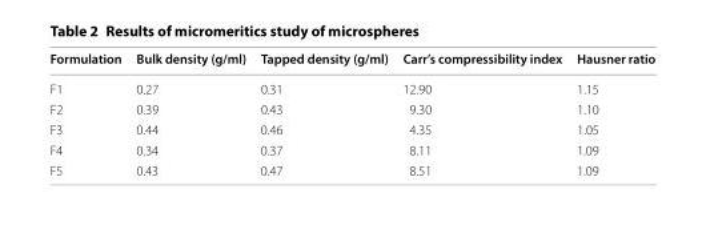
<table><thead><tr><td>Formulation</td><td>Bulk density (g/ml)</td><td>Tapped density (g/ml)</td><td>Carr’s compressibility index</td><td>Hausner ratio</td></tr></thead><tbody><tr><td>F1</td><td>0.27</td><td>0.31</td><td>12.90</td><td>1.15</td></tr><tr><td>F2</td><td>0.39</td><td>0.43</td><td>9.30</td><td>1.10</td></tr><tr><td>F3</td><td>0.44</td><td>0.46</td><td>4.35</td><td>1.05</td></tr><tr><td>F4</td><td>0.34</td><td>0.37</td><td>8.11</td><td>1.09</td></tr><tr><td>F5</td><td>0.43</td><td>0.47</td><td>8.51</td><td>1.09</td></tr></tbody></table>